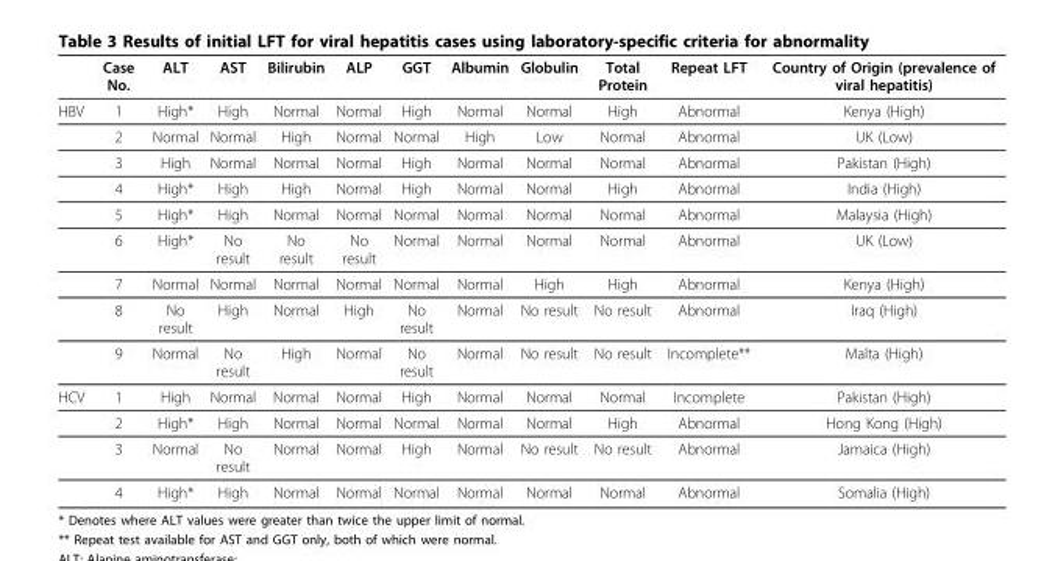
<table><thead><tr><td></td><td>Case No.</td><td>ALT</td><td>AST</td><td>Bilirubin</td><td>ALP</td><td>GGT</td><td>Albumin</td><td>Globulin</td><td>Total Protein</td><td>Repeat LFT</td><td>Country of Origin (prevalence of viral hepatitis)</td></tr></thead><tbody><tr><td rowspan="9">HBV</td><td>1</td><td>High*</td><td>High</td><td>Normal</td><td>Normal</td><td>High</td><td>Normal</td><td>Normal</td><td>High</td><td>Abnormal</td><td>Kenya (High)</td></tr><tr><td>2</td><td>Normal</td><td>Normal</td><td>High</td><td>Normal</td><td>Normal</td><td>High</td><td>Low</td><td>Normal</td><td>Abnormal</td><td>UK (Low)</td></tr><tr><td>3</td><td>High</td><td>Normal</td><td>Normal</td><td>Normal</td><td>High</td><td>Normal</td><td>Normal</td><td>Normal</td><td>Abnormal</td><td>Pakistan (High)</td></tr><tr><td>4</td><td>High*</td><td>High</td><td>High</td><td>Normal</td><td>High</td><td>Normal</td><td>Normal</td><td>High</td><td>Abnormal</td><td>India (High)</td></tr><tr><td>5</td><td>High*</td><td>High</td><td>Normal</td><td>Normal</td><td>Normal</td><td>Normal</td><td>Normal</td><td>Normal</td><td>Abnormal</td><td>Malaysia (High)</td></tr><tr><td>6</td><td>High*</td><td>No result</td><td>No result</td><td>No result</td><td>Normal</td><td>Normal</td><td>Normal</td><td>Normal</td><td>Abnormal</td><td>UK (Low)</td></tr><tr><td>7</td><td>Normal</td><td>Normal</td><td>Normal</td><td>Normal</td><td>Normal</td><td>Normal</td><td>High</td><td>High</td><td>Abnormal</td><td>Kenya (High)</td></tr><tr><td>8</td><td>No result</td><td>High</td><td>Normal</td><td>High</td><td>No result</td><td>Normal</td><td>No result</td><td>No result</td><td>Abnormal</td><td>Iraq (High)</td></tr><tr><td>9</td><td>Normal</td><td>No result</td><td>High</td><td>Normal</td><td>No result</td><td>Normal</td><td>No result</td><td>No result</td><td>Incomplete**</td><td>Malta (High)</td></tr><tr><td rowspan="4">HCV</td><td>1</td><td>High</td><td>Normal</td><td>Normal</td><td>Normal</td><td>High</td><td>Normal</td><td>Normal</td><td>Normal</td><td>Incomplete</td><td>Pakistan (High)</td></tr><tr><td>2</td><td>High*</td><td>High</td><td>Normal</td><td>Normal</td><td>Normal</td><td>Normal</td><td>Normal</td><td>High</td><td>Abnormal</td><td>Hong Kong (High)</td></tr><tr><td>3</td><td>Normal</td><td>No result</td><td>Normal</td><td>Normal</td><td>High</td><td>Normal</td><td>No result</td><td>No result</td><td>Abnormal</td><td>Jamaica (High)</td></tr><tr><td>4</td><td>High*</td><td>High</td><td>Normal</td><td>Normal</td><td>Normal</td><td>Normal</td><td>Normal</td><td>Normal</td><td>Abnormal</td><td>Somalia (High)</td></tr></tbody></table>